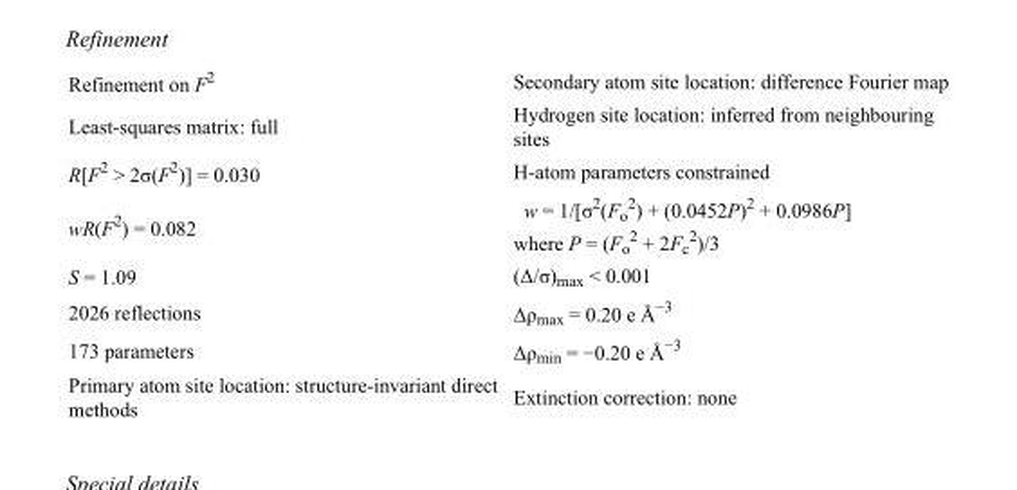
<table><tbody><tr><td>Refinement on F<sup>2</sup></td><td>Secondary atom site location: difference Fourier map</td></tr><tr><td>Least-squares matrix: full</td><td>Hydrogen site location: inferred from neighbouring sites</td></tr><tr><td>R[F<sup>2</sup> &gt; 2σ(F<sup>2</sup>)] = 0.030</td><td>H-atom parameters constrained</td></tr><tr><td>wR(F<sup>2</sup>) = 0.082</td><td>w = 1/[σ<sup>2</sup>(F<sub>o</sub> <sup>2</sup>) + (0.0452P)<sup>2</sup> + 0.0986P] where P = (F<sub>o</sub> <sup>2</sup> + 2F<sub>c</sub> <sup>2</sup>)/3</td></tr><tr><td>S = 1.09</td><td>(Δ/σ)<sub>max</sub> &lt; 0.001</td></tr><tr><td>2026 reflections</td><td>Δρ<sub>max</sub> = 0.20 e Å<sup>−3</sup></td></tr><tr><td>173 parameters</td><td>Δρ<sub>min</sub> = −0.20 e Å<sup>−3</sup></td></tr><tr><td>Primary atom site location: structure-invariant direct methods</td><td>Extinction correction: none</td></tr></tbody></table>